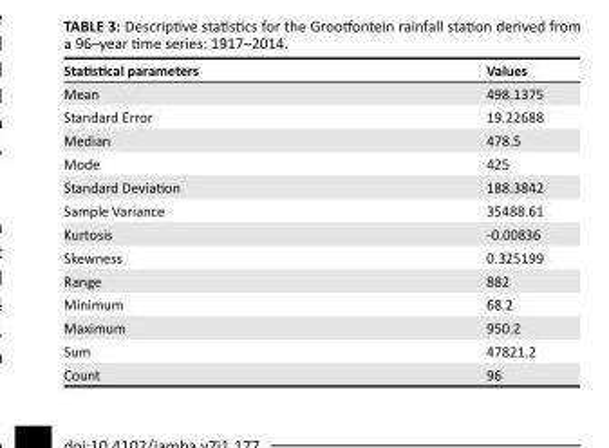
<table><thead><tr><td>Statistical parameters</td><td>Values</td></tr></thead><tbody><tr><td>Mean</td><td>498.1375</td></tr><tr><td>Standard Error</td><td>19.22688</td></tr><tr><td>Median</td><td>478.5</td></tr><tr><td>Mode</td><td>425</td></tr><tr><td>Standard Deviation</td><td>188.3842</td></tr><tr><td>Sample Variance</td><td>35488.61</td></tr><tr><td>Kurtosis</td><td>-0.00836</td></tr><tr><td>Skewness</td><td>0.325199</td></tr><tr><td>Range</td><td>882</td></tr><tr><td>Minimum</td><td>68.2</td></tr><tr><td>Maximum</td><td>950.2</td></tr><tr><td>Sum</td><td>47821.2</td></tr><tr><td>Count</td><td>96</td></tr></tbody></table>